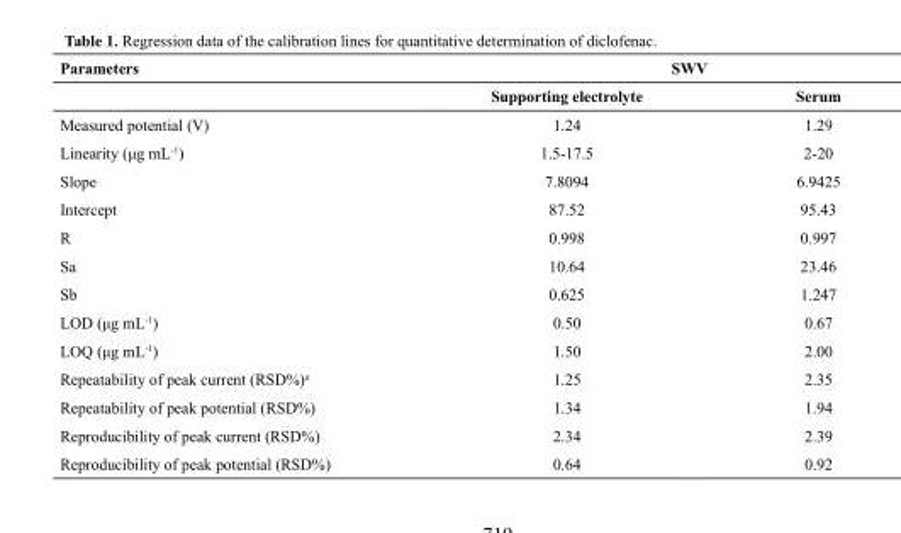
<table><thead><tr><td rowspan="2">Parameters</td><td colspan="2">SWV</td></tr><tr><td>Supporting electrolyte</td><td>Serum</td></tr></thead><tbody><tr><td>Measured potential (V)</td><td>1.24</td><td>1.29</td></tr><tr><td>Linearity (μg mL<sup>-1</sup>)</td><td>1.5-17.5</td><td>2-20</td></tr><tr><td>Slope</td><td>7.8094</td><td>6.9425</td></tr><tr><td>Intercept</td><td>87.52</td><td>95.43</td></tr><tr><td>R</td><td>0.998</td><td>0.997</td></tr><tr><td>Sa</td><td>10.64</td><td>23.46</td></tr><tr><td>Sb</td><td>0.625</td><td>1.247</td></tr><tr><td>LOD (μg mL<sup>-1</sup>)</td><td>0.50</td><td>0.67</td></tr><tr><td>LOQ (μg mL<sup>-1</sup>)</td><td>1.50</td><td>2.00</td></tr><tr><td>Repeatability of peak current (RSD%)<sup>a</sup></td><td>1.25</td><td>2.35</td></tr><tr><td>Repeatability of peak potential (RSD%)</td><td>1.34</td><td>1.94</td></tr><tr><td>Reproducibility of peak current (RSD%)</td><td>2.34</td><td>2.39</td></tr><tr><td>Reproducibility of peak potential (RSD%)</td><td>0.64</td><td>0.92</td></tr></tbody></table>